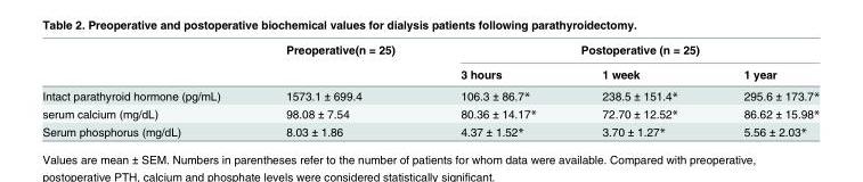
<table><thead><tr><td rowspan="2"></td><td rowspan="2">Preoperative(n = 25)</td><td colspan="3">Postoperative (n = 25)</td></tr><tr><td>3 hours</td><td>1 week</td><td>1 year</td></tr></thead><tbody><tr><td>Intact parathyroid hormone (pg/mL)</td><td>1573.1 ± 699.4</td><td>106.3 ± 86.7*</td><td>238.5 ± 151.4*</td><td>295.6 ± 173.7*</td></tr><tr><td>serum calcium (mg/dL)</td><td>98.08 ± 7.54</td><td>80.36 ± 14.17*</td><td>72.70 ± 12.52*</td><td>86.62 ± 15.98*</td></tr><tr><td>Serum phosphorus (mg/dL)</td><td>8.03 ± 1.86</td><td>4.37 ± 1.52*</td><td>3.70 ± 1.27*</td><td>5.56 ± 2.03*</td></tr></tbody></table>